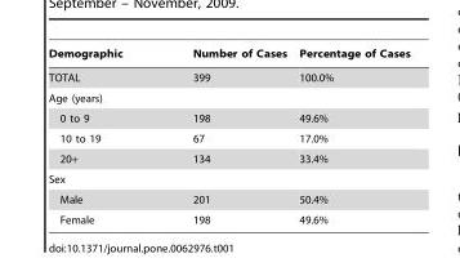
<table><thead><tr><td>Demographic</td><td>Number of Cases</td><td>Percentage of Cases</td></tr></thead><tbody><tr><td>TOTAL</td><td>399</td><td>100.0%</td></tr><tr><td colspan="3">Age (years)</td></tr><tr><td>0 to 9</td><td>198</td><td>49.6%</td></tr><tr><td>10 to 19</td><td>67</td><td>17.0%</td></tr><tr><td>20+</td><td>134</td><td>33.4%</td></tr><tr><td colspan="3">Sex</td></tr><tr><td>Male</td><td>201</td><td>50.4%</td></tr><tr><td>Female</td><td>198</td><td>49.6%</td></tr></tbody></table>